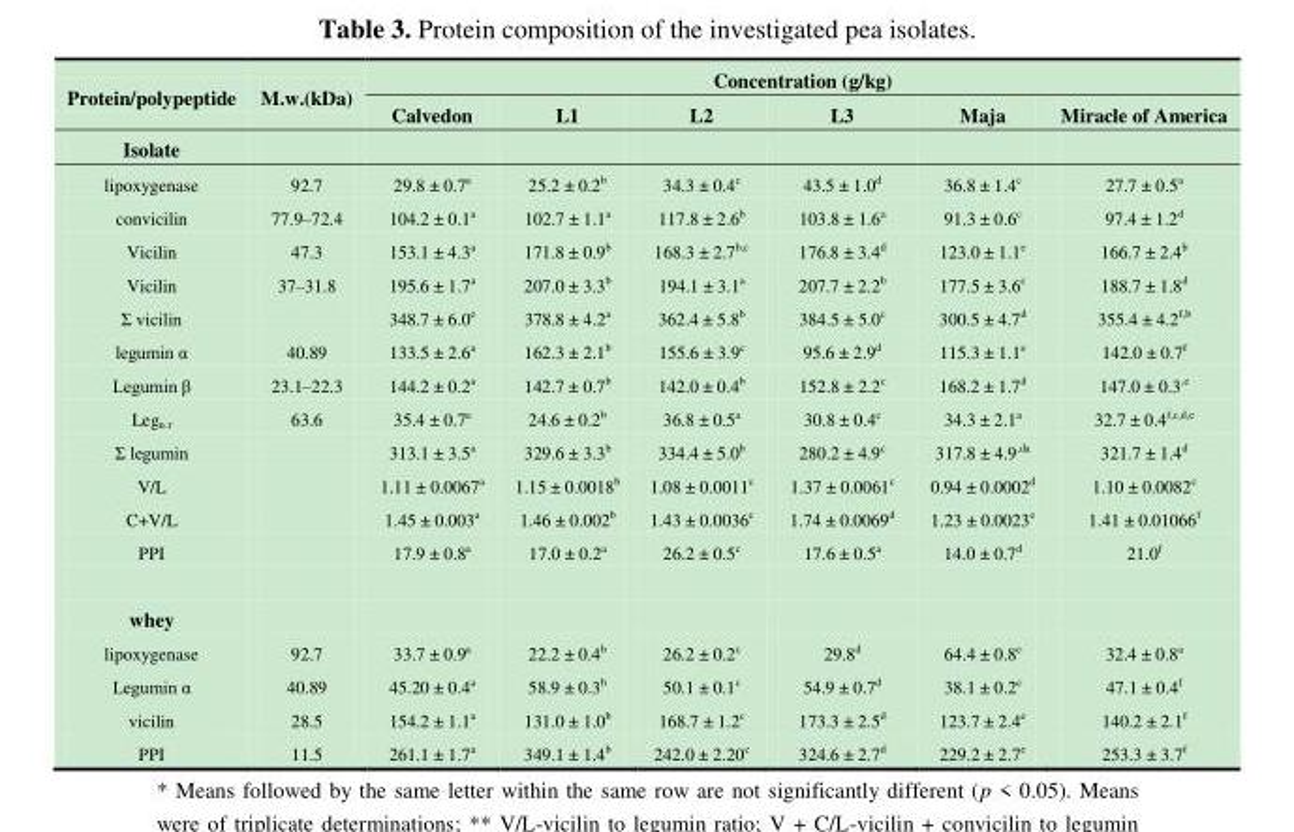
<table><thead><tr><td rowspan="2">Protein/polypeptide</td><td rowspan="2">M.w.(kDa)</td><td colspan="6">Concentration (g/kg)</td></tr><tr><td>Calvedon</td><td>L1</td><td>L2</td><td>L3</td><td>Maja</td><td>Miracle of America</td></tr></thead><tbody><tr><td colspan="8">Isolate</td></tr><tr><td>lipoxygenase</td><td>92.7</td><td>29.8 ± 0.7<sup>a</sup></td><td>25.2 ± 0.2<sup>b</sup></td><td>34.3 ± 0.4<sup>c</sup></td><td>43.5 ± 1.0<sup>d</sup></td><td>36.8 ± 1.4<sup>c</sup></td><td>27.7 ± 0.5<sup>a</sup></td></tr><tr><td>convicilin</td><td>77.9–72.4</td><td>104.2 ± 0.1<sup>a</sup></td><td>102.7 ± 1.1<sup>a</sup></td><td>117.8 ± 2.6<sup>b</sup></td><td>103.8 ± 1.6<sup>a</sup></td><td>91.3 ± 0.6<sup>c</sup></td><td>97.4 ± 1.2<sup>d</sup></td></tr><tr><td>Vicilin</td><td>47.3</td><td>153.1 ± 4.3<sup>a</sup></td><td>171.8 ± 0.9<sup>b</sup></td><td>168.3 ± 2.7<sup>b,c</sup></td><td>176.8 ± 3.4<sup>d</sup></td><td>123.0 ± 1.1<sup>e</sup></td><td>166.7 ± 2.4<sup>b</sup></td></tr><tr><td>Vicilin</td><td>37–31.8</td><td>195.6 ± 1.7<sup>a</sup></td><td>207.0 ± 3.3<sup>b</sup></td><td>194.1 ± 3.1<sup>a</sup></td><td>207.7 ± 2.2<sup>b</sup></td><td>177.5 ± 3.6<sup>c</sup></td><td>188.7 ± 1.8<sup>d</sup></td></tr><tr><td>Σ vicilin</td><td></td><td>348.7 ± 6.0<sup>e</sup></td><td>378.8 ± 4.2<sup>a</sup></td><td>362.4 ± 5.8<sup>b</sup></td><td>384.5 ± 5.0<sup>c</sup></td><td>300.5 ± 4.7<sup>d</sup></td><td>355.4 ± 4.2<sup>f,b</sup></td></tr><tr><td>legumin α</td><td>40.89</td><td>133.5 ± 2.6<sup>a</sup></td><td>162.3 ± 2.1<sup>b</sup></td><td>155.6 ± 3.9<sup>c</sup></td><td>95.6 ± 2.9<sup>d</sup></td><td>115.3 ± 1.1<sup>e</sup></td><td>142.0 ± 0.7<sup>f</sup></td></tr><tr><td>Legumin β</td><td>23.1–22.3</td><td>144.2 ± 0.2<sup>a</sup></td><td>142.7 ± 0.7<sup>b</sup></td><td>142.0 ± 0.4<sup>b</sup></td><td>152.8 ± 2.2<sup>c</sup></td><td>168.2 ± 1.7<sup>d</sup></td><td>147.0 ± 0.3<sup>,e</sup></td></tr><tr><td>Leg<sub>n.r</sub></td><td>63.6</td><td>35.4 ± 0.7<sup>a</sup></td><td>24.6 ± 0.2<sup>b</sup></td><td>36.8 ± 0.5<sup>a</sup></td><td>30.8 ± 0.4<sup>c</sup></td><td>34.3 ± 2.1<sup>a</sup></td><td>32.7 ± 0.4<sup>f,c,d,e</sup></td></tr><tr><td>Σ legumin</td><td></td><td>313.1 ± 3.5<sup>a</sup></td><td>329.6 ± 3.3<sup>b</sup></td><td>334.4 ± 5.0<sup>b</sup></td><td>280.2 ± 4.9<sup>c</sup></td><td>317.8 ± 4.9<sup>,da</sup></td><td>321.7 ± 1.4<sup>d</sup></td></tr><tr><td>V/L</td><td></td><td>1.11 ± 0.0067<sup>a</sup></td><td>1.15 ± 0.0018<sup>b</sup></td><td>1.08 ± 0.0011<sup>c</sup></td><td>1.37 ± 0.0061<sup>c</sup></td><td>0.94 ± 0.0002<sup>d</sup></td><td>1.10 ± 0.0082<sup>c</sup></td></tr><tr><td>C+V/L</td><td></td><td>1.45 ± 0.003<sup>a</sup></td><td>1.46 ± 0.002<sup>b</sup></td><td>1.43 ± 0.0036<sup>c</sup></td><td>1.74 ± 0.0069<sup>d</sup></td><td>1.23 ± 0.0023<sup>e</sup></td><td>1.41 ± 0.01066<sup>f</sup></td></tr><tr><td>PPI</td><td></td><td>17.9 ± 0.8<sup>a</sup></td><td>17.0 ± 0.2<sup>a</sup></td><td>26.2 ± 0.5<sup>c</sup></td><td>17.6 ± 0.5<sup>a</sup></td><td>14.0 ± 0.7<sup>d</sup></td><td>21.0<sup>f</sup></td></tr><tr><td colspan="8">whey</td></tr><tr><td>lipoxygenase</td><td>92.7</td><td>33.7 ± 0.9<sup>a</sup></td><td>22.2 ± 0.4<sup>b</sup></td><td>26.2 ± 0.2<sup>c</sup></td><td>29.8<sup>d</sup></td><td>64.4 ± 0.8<sup>e</sup></td><td>32.4 ± 0.8<sup>a</sup></td></tr><tr><td>Legumin α</td><td>40.89</td><td>45.20 ± 0.4<sup>a</sup></td><td>58.9 ± 0.3<sup>b</sup></td><td>50.1 ± 0.1<sup>c</sup></td><td>54.9 ± 0.7<sup>d</sup></td><td>38.1 ± 0.2<sup>e</sup></td><td>47.1 ± 0.4<sup>f</sup></td></tr><tr><td>vicilin</td><td>28.5</td><td>154.2 ± 1.1<sup>a</sup></td><td>131.0 ± 1.0<sup>b</sup></td><td>168.7 ± 1.2<sup>c</sup></td><td>173.3 ± 2.5<sup>d</sup></td><td>123.7 ± 2.4<sup>e</sup></td><td>140.2 ± 2.1<sup>f</sup></td></tr><tr><td>PPI</td><td>11.5</td><td>261.1 ± 1.7<sup>a</sup></td><td>349.1 ± 1.4<sup>b</sup></td><td>242.0 ± 2.20<sup>c</sup></td><td>324.6 ± 2.7<sup>d</sup></td><td>229.2 ± 2.7<sup>e</sup></td><td>253.3 ± 3.7<sup>f</sup></td></tr></tbody></table>